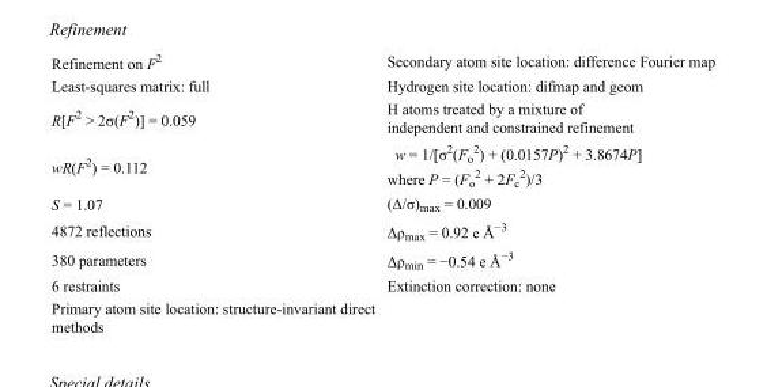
<table><tbody><tr><td>Refinement on F<sup>2</sup></td><td>Secondary atom site location: difference Fourier map</td></tr><tr><td>Least-squares matrix: full</td><td>Hydrogen site location: difmap and geom</td></tr><tr><td>R[F<sup>2</sup> &gt; 2σ(F<sup>2</sup>)] = 0.059</td><td>H atoms treated by a mixture of independent and constrained refinement</td></tr><tr><td>wR(F<sup>2</sup>) = 0.112</td><td>w = 1/[σ<sup>2</sup>(F<sub>o</sub> <sup>2</sup>) + (0.0157P)<sup>2</sup> + 3.8674P] where P = (F<sub>o</sub> <sup>2</sup> + 2F<sub>c</sub> <sup>2</sup>)/3</td></tr><tr><td>S = 1.07</td><td>(Δ/σ)<sub>max</sub> = 0.009</td></tr><tr><td>4872 reflections</td><td>Δρ<sub>max</sub> = 0.92 e Å<sup>−3</sup></td></tr><tr><td>380 parameters</td><td>Δρ<sub>min</sub> = −0.54 e Å<sup>−3</sup></td></tr><tr><td>6 restraints</td><td>Extinction correction: none</td></tr><tr><td>Primary atom site location: structure-invariant direct methods</td><td></td></tr></tbody></table>